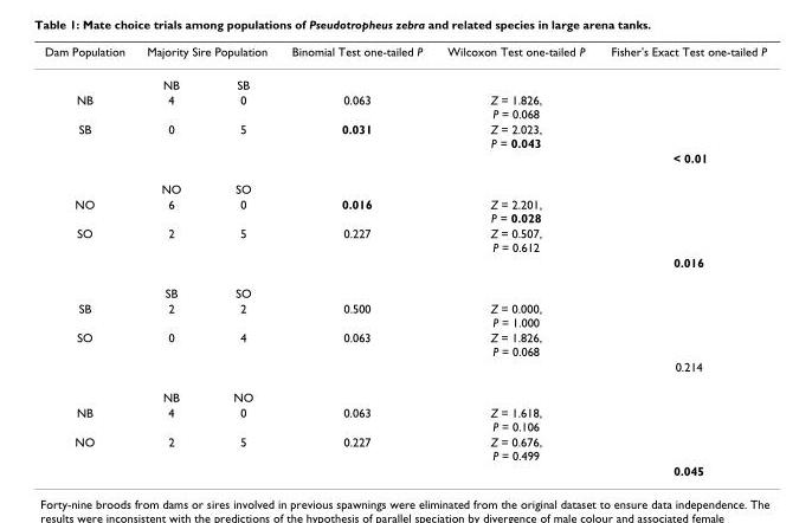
<table><thead><tr><td rowspan="2">Dam Population</td><td colspan="2">Majority Sire Population</td><td rowspan="2">Binomial Test one-tailed P</td><td rowspan="2">Wilcoxon Test one-tailed P</td><td rowspan="2">Fisher&#x27;s Exact Test one-tailed P</td></tr><tr><td>NB</td><td>SB</td></tr></thead><tbody><tr><td>NB</td><td>4</td><td>0</td><td>0.063</td><td>Z = 1.826, P = 0.068</td><td></td></tr><tr><td rowspan="3">SB</td><td>0</td><td>5</td><td>0.031</td><td>Z = 2.023, P = 0.043</td><td></td></tr><tr><td></td><td></td><td></td><td></td><td>&lt; 0.01</td></tr><tr><td>NO</td><td>SO</td><td></td><td></td><td></td></tr><tr><td>NO</td><td>6</td><td>0</td><td>0.016</td><td>Z = 2.201, P = 0.028</td><td></td></tr><tr><td rowspan="3">SO</td><td>2</td><td>5</td><td>0.227</td><td>Z = 0.507, P = 0.612</td><td></td></tr><tr><td></td><td></td><td></td><td></td><td>0.016</td></tr><tr><td>SB</td><td>SO</td><td></td><td></td><td></td></tr><tr><td>SB</td><td>2</td><td>2</td><td>0.500</td><td>Z = 0.000, P = 1.000</td><td></td></tr><tr><td rowspan="3">SO</td><td>0</td><td>4</td><td>0.063</td><td>Z = 1.826, P = 0.068</td><td></td></tr><tr><td></td><td></td><td></td><td></td><td>0.214</td></tr><tr><td>NB</td><td>NO</td><td></td><td></td><td></td></tr><tr><td>NB</td><td>4</td><td>0</td><td>0.063</td><td>Z = 1.618, P = 0.106</td><td></td></tr><tr><td rowspan="2">NO</td><td>2</td><td>5</td><td>0.227</td><td>Z = 0.676, P = 0.499</td><td></td></tr><tr><td></td><td></td><td></td><td></td><td>0.045</td></tr></tbody></table>